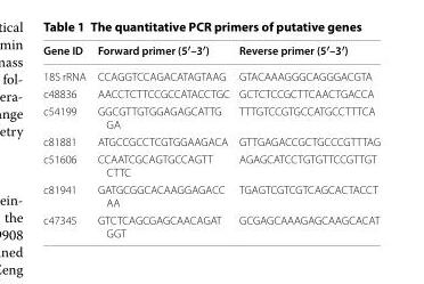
<table><thead><tr><td>Gene ID</td><td>Forward primer (5′–3′)</td><td>Reverse primer (5′–3′)</td></tr></thead><tbody><tr><td>18S rRNA</td><td>CCAGGTCCAGACATAGTAAG</td><td>GTACAAAGGGCAGGGACGTA</td></tr><tr><td>c48836</td><td>AACCTCTTCCGCCATACCTGC</td><td>GCTCTCCGCTTCAACTGACCA</td></tr><tr><td>c54199</td><td>GGCGTTGTGGAGAGCATTG GA</td><td>TTTGTCCGTGCCATGCCTTTCA</td></tr><tr><td>c81881</td><td>ATGCCGCCTCGTGGAAGACA</td><td>GTTGAGACCGCTGCCCGTTTAG</td></tr><tr><td>c51606</td><td>CCAATCGCAGTGCCAGTT CTTC</td><td>AGAGCATCCTGTGTTCCGTTGT</td></tr><tr><td>c81941</td><td>GATGCGGCACAAGGAGACC AA</td><td>TGAGTCGTCGTCAGCACTACCT</td></tr><tr><td>c47345</td><td>GTCTCAGCGAGCAACAGAT GGT</td><td>GCGAGCAAAGAGCAAGCACAT</td></tr></tbody></table>